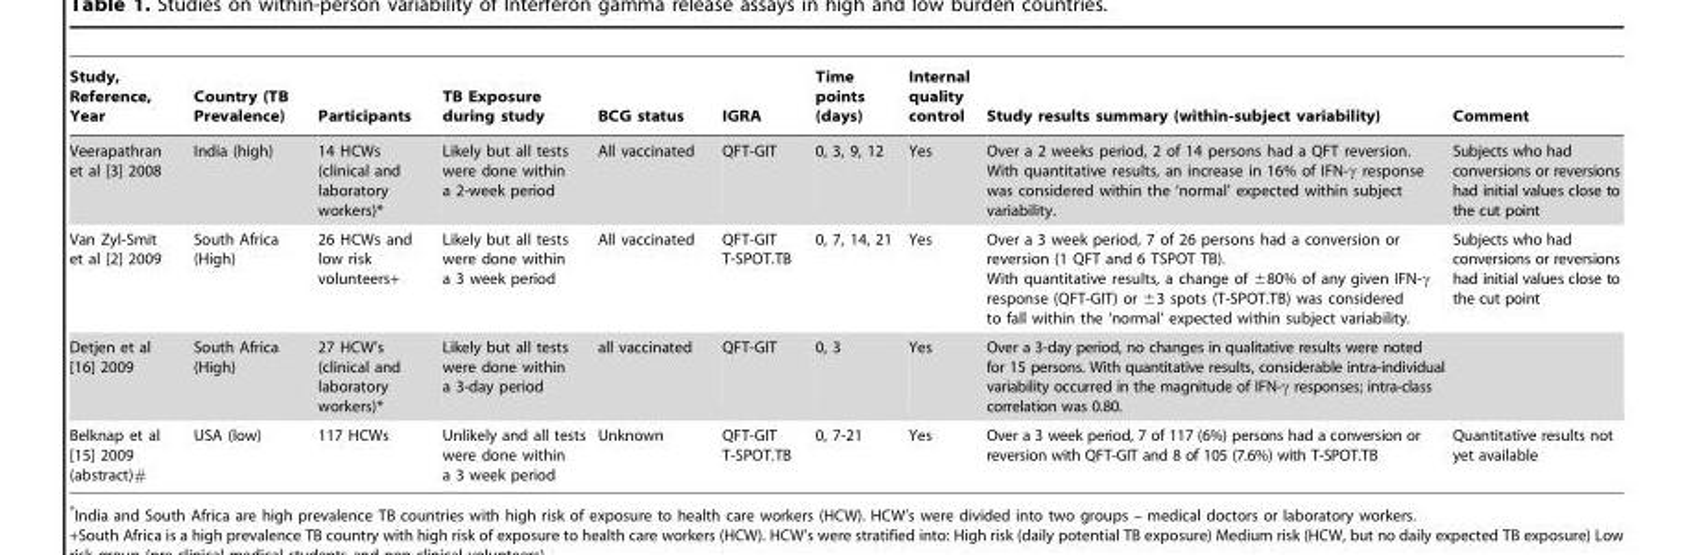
<table><thead><tr><td>Study, Reference, Year</td><td>Country (TB Prevalence)</td><td>Participants</td><td>TB Exposure during study</td><td>BCG status</td><td>IGRA</td><td>Time points (days)</td><td>Internal quality control</td><td>Study results summary (within-subject variability)</td><td>Comment</td></tr></thead><tbody><tr><td>Veerapathran et al [3] 2008</td><td>India (high)</td><td>14 HCWs (clinical and laboratory workers)*</td><td>Likely but all tests were done within a 2-week period</td><td>All vaccinated</td><td>QFT-GIT</td><td>0, 3, 9, 12</td><td>Yes</td><td>Over a 2 weeks period, 2 of 14 persons had a QFT reversion. With quantitative results, an increase in 16% of IFN-γ response was considered within the ‘normal’ expected within subject variability.</td><td>Subjects who had conversions or reversions had initial values close to the cut point</td></tr><tr><td>Van Zyl-Smit et al [2] 2009</td><td>South Africa (High)</td><td>26 HCWs and low risk volunteers+</td><td>Likely but all tests were done within a 3 week period</td><td>All vaccinated</td><td>QFT-GIT T-SPOT.TB</td><td>0, 7, 14, 21</td><td>Yes</td><td>Over a 3 week period, 7 of 26 persons had a conversion or reversion (1 QFT and 6 TSPOT TB). With quantitative results, a change of ±80% of any given IFN-γ response (QFT-GIT) or ±3 spots (T-SPOT.TB) was considered to fall within the ‘normal’ expected within subject variability.</td><td>Subjects who had conversions or reversions had initial values close to the cut point</td></tr><tr><td>Detjen et al [16] 2009</td><td>South Africa (High)</td><td>27 HCW’s (clinical and laboratory workers)*</td><td>Likely but all tests were done within a 3-day period</td><td>all vaccinated</td><td>QFT-GIT</td><td>0, 3</td><td>Yes</td><td>Over a 3-day period, no changes in qualitative results were noted for 15 persons. With quantitative results, considerable intra-individual variability occurred in the magnitude of IFN-γ responses; intra-class correlation was 0.80.</td><td></td></tr><tr><td>Belknap et al [15] 2009 (abstract)#</td><td>USA (low)</td><td>117 HCWs</td><td>Unlikely and all tests were done within a 3 week period</td><td>Unknown</td><td>QFT-GIT T-SPOT.TB</td><td>0, 7-21</td><td>Yes</td><td>Over a 3 week period, 7 of 117 (6%) persons had a conversion or reversion with QFT-GIT and 8 of 105 (7.6%) with T-SPOT.TB</td><td>Quantitative results not yet available</td></tr></tbody></table>